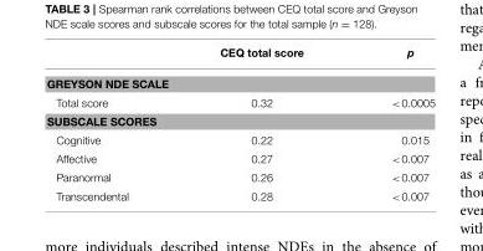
<table><thead><tr><td></td><td>CEQ total score</td><td>p</td></tr></thead><tbody><tr><td colspan="3">GREYSON NDE SCALE</td></tr><tr><td>Total score</td><td>0.32</td><td>&lt;0.0005</td></tr><tr><td colspan="3">SUBSCALE SCORES</td></tr><tr><td>Cognitive</td><td>0.22</td><td>0.015</td></tr><tr><td>Affective</td><td>0.27</td><td>&lt;0.007</td></tr><tr><td>Paranormal</td><td>0.26</td><td>&lt;0.007</td></tr><tr><td>Transcendental</td><td>0.28</td><td>&lt;0.007</td></tr></tbody></table>